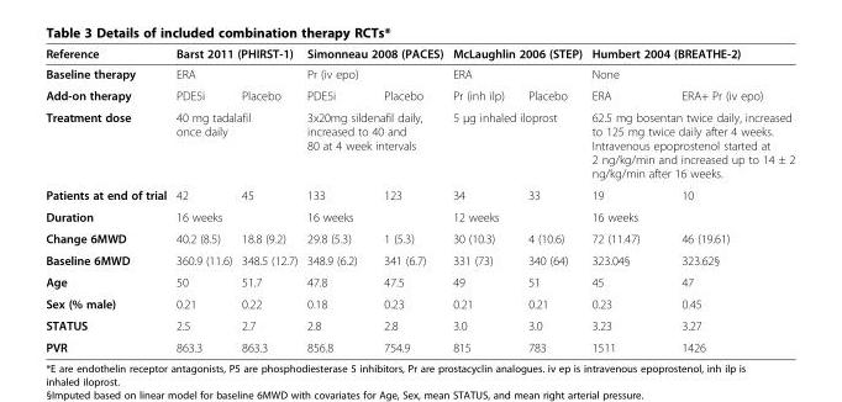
<table><thead><tr><td rowspan="3">Reference Baseline therapy Add-on therapy</td><td rowspan="2" colspan="2">Barst 2011 (PHIRST-1) ERA</td><td rowspan="2" colspan="2">Simonneau 2008 (PACES) Pr (iv epo)</td><td rowspan="2" colspan="2">McLaughlin 2006 (STEP) ERA</td><td rowspan="2" colspan="2">Humbert 2004 (BREATHE-2) None</td></tr><tr></tr><tr><td>PDE5i</td><td>Placebo</td><td>PDE5i</td><td>Placebo</td><td>Pr (inh ilp)</td><td>Placebo</td><td>ERA</td><td>ERA+ Pr (iv epo)</td></tr></thead><tbody><tr><td>Treatment dose</td><td colspan="2">40 mg tadalafil once daily</td><td colspan="2">3x20mg sildenafil daily, increased to 40 and 80 at 4 week intervals</td><td colspan="2">5 μg inhaled iloprost</td><td colspan="2">62.5 mg bosentan twice daily, increased to 125 mg twice daily after 4 weeks. Intravenous epoprostenol started at 2 ng/kg/min and increased up to 14 ± 2 ng/kg/min after 16 weeks.</td></tr><tr><td>Patients at end of trial</td><td>42</td><td>45</td><td>133</td><td>123</td><td>34</td><td>33</td><td>19</td><td>10</td></tr><tr><td>Duration</td><td colspan="2">16 weeks</td><td colspan="2">16 weeks</td><td colspan="2">12 weeks</td><td colspan="2">16 weeks</td></tr><tr><td>Change 6MWD</td><td>40.2 (8.5)</td><td>18.8 (9.2)</td><td>29.8 (5.3)</td><td>1 (5.3)</td><td>30 (10.3)</td><td>4 (10.6)</td><td>72 (11.47)</td><td>46 (19.61)</td></tr><tr><td>Baseline 6MWD</td><td>360.9 (11.6)</td><td>348.5 (12.7)</td><td>348.9 (6.2)</td><td>341 (6.7)</td><td>331 (73)</td><td>340 (64)</td><td>323.04§</td><td>323.62§</td></tr><tr><td>Age</td><td>50</td><td>51.7</td><td>47.8</td><td>47.5</td><td>49</td><td>51</td><td>45</td><td>47</td></tr><tr><td>Sex (% male)</td><td>0.21</td><td>0.22</td><td>0.18</td><td>0.23</td><td>0.21</td><td>0.21</td><td>0.23</td><td>0.45</td></tr><tr><td>STATUS</td><td>2.5</td><td>2.7</td><td>2.8</td><td>2.8</td><td>3.0</td><td>3.0</td><td>3.23</td><td>3.27</td></tr><tr><td>PVR</td><td>863.3</td><td>863.3</td><td>856.8</td><td>754.9</td><td>815</td><td>783</td><td>1511</td><td>1426</td></tr></tbody></table>